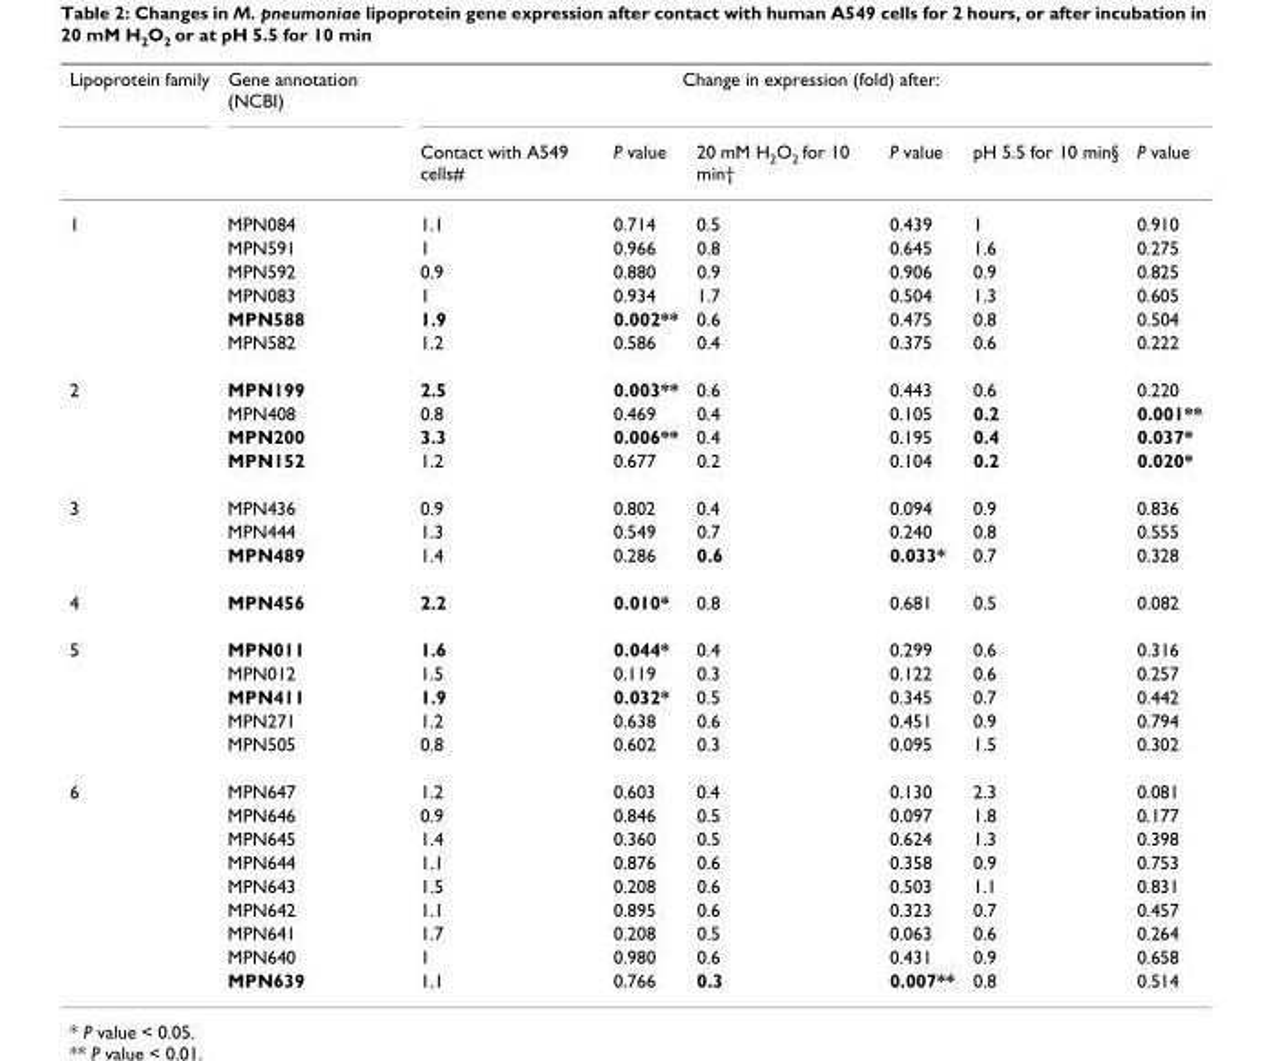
<table><thead><tr><td rowspan="2">Lipoprotein family</td><td rowspan="2">Gene annotation (NCBI)</td><td colspan="6">Change in expression (fold) after:</td></tr><tr><td>Contact with A549 cells#</td><td>P value</td><td>20 mM H<sub>2</sub>O<sub>2</sub> for 10 min†</td><td>P value</td><td>pH 5.5 for 10 min§</td><td>P value</td></tr></thead><tbody><tr><td rowspan="6">1</td><td>MPN084</td><td>1.1</td><td>0.714</td><td>0.5</td><td>0.439</td><td>1</td><td>0.910</td></tr><tr><td>MPN591</td><td>1</td><td>0.966</td><td>0.8</td><td>0.645</td><td>1.6</td><td>0.275</td></tr><tr><td>MPN592</td><td>0.9</td><td>0.880</td><td>0.9</td><td>0.906</td><td>0.9</td><td>0.825</td></tr><tr><td>MPN083</td><td>1</td><td>0.934</td><td>1.7</td><td>0.504</td><td>1.3</td><td>0.605</td></tr><tr><td>MPN588</td><td>1.9</td><td>0.002**</td><td>0.6</td><td>0.475</td><td>0.8</td><td>0.504</td></tr><tr><td>MPN582</td><td>1.2</td><td>0.586</td><td>0.4</td><td>0.375</td><td>0.6</td><td>0.222</td></tr><tr><td rowspan="4">2</td><td>MPN199</td><td>2.5</td><td>0.003**</td><td>0.6</td><td>0.443</td><td>0.6</td><td>0.220</td></tr><tr><td>MPN408</td><td>0.8</td><td>0.469</td><td>0.4</td><td>0.105</td><td>0.2</td><td>0.001**</td></tr><tr><td>MPN200</td><td>3.3</td><td>0.006**</td><td>0.4</td><td>0.195</td><td>0.4</td><td>0.037*</td></tr><tr><td>MPN152</td><td>1.2</td><td>0.677</td><td>0.2</td><td>0.104</td><td>0.2</td><td>0.020*</td></tr><tr><td rowspan="3">3</td><td>MPN436</td><td>0.9</td><td>0.802</td><td>0.4</td><td>0.094</td><td>0.9</td><td>0.836</td></tr><tr><td>MPN444</td><td>1.3</td><td>0.549</td><td>0.7</td><td>0.240</td><td>0.8</td><td>0.555</td></tr><tr><td>MPN489</td><td>1.4</td><td>0.286</td><td>0.6</td><td>0.033*</td><td>0.7</td><td>0.328</td></tr><tr><td>4</td><td>MPN456</td><td>2.2</td><td>0.010*</td><td>0.8</td><td>0.681</td><td>0.5</td><td>0.082</td></tr><tr><td rowspan="5">5</td><td>MPN011</td><td>1.6</td><td>0.044*</td><td>0.4</td><td>0.299</td><td>0.6</td><td>0.316</td></tr><tr><td>MPN012</td><td>1.5</td><td>0.119</td><td>0.3</td><td>0.122</td><td>0.6</td><td>0.257</td></tr><tr><td>MPN411</td><td>1.9</td><td>0.032*</td><td>0.5</td><td>0.345</td><td>0.7</td><td>0.442</td></tr><tr><td>MPN271</td><td>1.2</td><td>0.638</td><td>0.6</td><td>0.451</td><td>0.9</td><td>0.794</td></tr><tr><td>MPN505</td><td>0.8</td><td>0.602</td><td>0.3</td><td>0.095</td><td>1.5</td><td>0.302</td></tr><tr><td rowspan="9">6</td><td>MPN647</td><td>1.2</td><td>0.603</td><td>0.4</td><td>0.130</td><td>2.3</td><td>0.081</td></tr><tr><td>MPN646</td><td>0.9</td><td>0.846</td><td>0.5</td><td>0.097</td><td>1.8</td><td>0.177</td></tr><tr><td>MPN645</td><td>1.4</td><td>0.360</td><td>0.5</td><td>0.624</td><td>1.3</td><td>0.398</td></tr><tr><td>MPN644</td><td>1.1</td><td>0.876</td><td>0.6</td><td>0.358</td><td>0.9</td><td>0.753</td></tr><tr><td>MPN643</td><td>1.5</td><td>0.208</td><td>0.6</td><td>0.503</td><td>1.1</td><td>0.831</td></tr><tr><td>MPN642</td><td>1.1</td><td>0.895</td><td>0.6</td><td>0.323</td><td>0.7</td><td>0.457</td></tr><tr><td>MPN641</td><td>1.7</td><td>0.208</td><td>0.5</td><td>0.063</td><td>0.6</td><td>0.264</td></tr><tr><td>MPN640</td><td>1</td><td>0.980</td><td>0.6</td><td>0.431</td><td>0.9</td><td>0.658</td></tr><tr><td>MPN639</td><td>1.1</td><td>0.766</td><td>0.3</td><td>0.007**</td><td>0.8</td><td>0.514</td></tr></tbody></table>